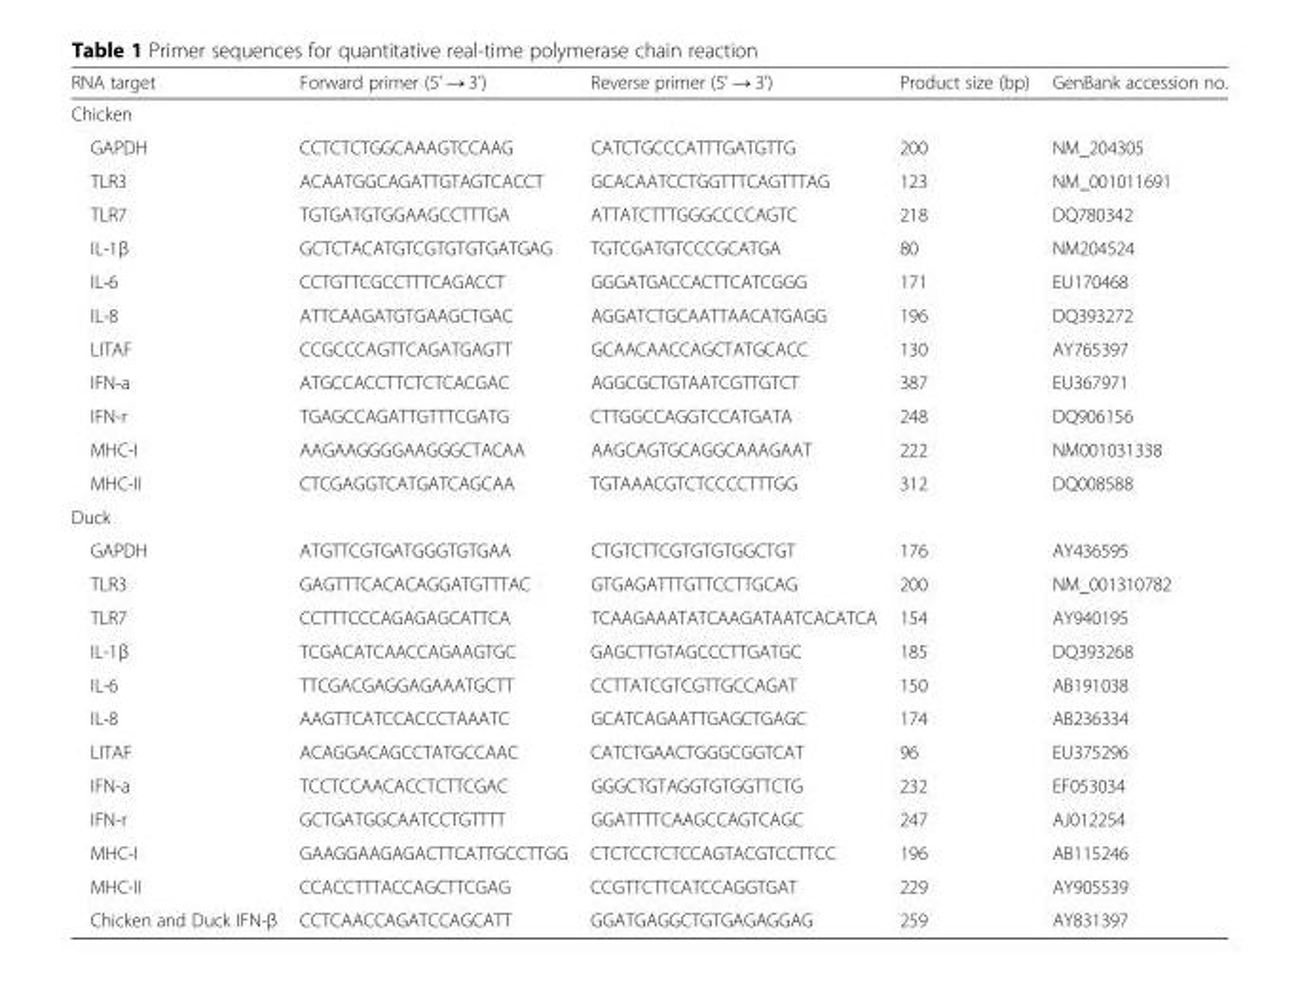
<table><thead><tr><td>RNA target</td><td>Forward primer (5&#x27; → 3&#x27;)</td><td>Reverse primer (5&#x27; → 3&#x27;)</td><td>Product size (bp)</td><td>GenBank accession no.</td></tr></thead><tbody><tr><td colspan="5">Chicken</td></tr><tr><td>GAPDH</td><td>CCTCTCTGGCAAAGTCCAAG</td><td>CATCTGCCCATTTGATGTTG</td><td>200</td><td>NM_204305</td></tr><tr><td>TLR3</td><td>ACAATGGCAGATTGTAGTCACCT</td><td>GCACAATCCTGGTTTCAGTTTAG</td><td>123</td><td>NM_001011691</td></tr><tr><td>TLR7</td><td>TGTGATGTGGAAGCCTTTGA</td><td>ATTATCTTTGGGCCCCAGTC</td><td>218</td><td>DQ780342</td></tr><tr><td>IL-1β</td><td>GCTCTACATGTCGTGTGTGATGAG</td><td>TGTCGATGTCCCGCATGA</td><td>80</td><td>NM204524</td></tr><tr><td>IL-6</td><td>CCTGTTCGCCTTTCAGACCT</td><td>GGGATGACCACTTCATCGGG</td><td>171</td><td>EU170468</td></tr><tr><td>IL-8</td><td>ATTCAAGATGTGAAGCTGAC</td><td>AGGATCTGCAATTAACATGAGG</td><td>196</td><td>DQ393272</td></tr><tr><td>LITAF</td><td>CCGCCCAGTTCAGATGAGTT</td><td>GCAACAACCAGCTATGCACC</td><td>130</td><td>AY765397</td></tr><tr><td>IFN-a</td><td>ATGCCACCTTCTCTCACGAC</td><td>AGGCGCTGTAATCGTTGTCT</td><td>387</td><td>EU367971</td></tr><tr><td>IFN-r</td><td>TGAGCCAGATTGTTTCGATG</td><td>CTTGGCCAGGTCCATGATA</td><td>248</td><td>DQ906156</td></tr><tr><td>MHC-I</td><td>AAGAAGGGGAAGGGCTACAA</td><td>AAGCAGTGCAGGCAAAGAAT</td><td>222</td><td>NM001031338</td></tr><tr><td>MHC-II</td><td>CTCGAGGTCATGATCAGCAA</td><td>TGTAAACGTCTCCCCTTTGG</td><td>312</td><td>DQ008588</td></tr><tr><td colspan="5">Duck</td></tr><tr><td>GAPDH</td><td>ATGTTCGTGATGGGTGTGAA</td><td>CTGTCTTCGTGTGTGGCTGT</td><td>176</td><td>AY436595</td></tr><tr><td>TLR3</td><td>GAGTTTCACACAGGATGTTTAC</td><td>GTGAGATTTGTTCCTTGCAG</td><td>200</td><td>NM_001310782</td></tr><tr><td>TLR7</td><td>CCTTTCCCAGAGAGCATTCA</td><td>TCAAGAAATATCAAGATAATCACATCA</td><td>154</td><td>AY940195</td></tr><tr><td>IL-1β</td><td>TCGACATCAACCAGAAGTGC</td><td>GAGCTTGTAGCCCTTGATGC</td><td>185</td><td>DQ393268</td></tr><tr><td>IL-6</td><td>TTCGACGAGGAGAAATGCTT</td><td>CCTTATCGTCGTTGCCAGAT</td><td>150</td><td>AB191038</td></tr><tr><td>IL-8</td><td>AAGTTCATCCACCCTAAATC</td><td>GCATCAGAATTGAGCTGAGC</td><td>174</td><td>AB236334</td></tr><tr><td>LITAF</td><td>ACAGGACAGCCTATGCCAAC</td><td>CATCTGAACTGGGCGGTCAT</td><td>96</td><td>EU375296</td></tr><tr><td>IFN-a</td><td>TCCTCCAACACCTCTTCGAC</td><td>GGGCTGTAGGTGTGGTTCTG</td><td>232</td><td>EF053034</td></tr><tr><td>IFN-r</td><td>GCTGATGGCAATCCTGTTTT</td><td>GGATTTTCAAGCCAGTCAGC</td><td>247</td><td>AJ012254</td></tr><tr><td>MHC-I</td><td>GAAGGAAGAGACTTCATTGCCTTGG</td><td>CTCTCCTCTCCAGTACGTCCTTCC</td><td>196</td><td>AB115246</td></tr><tr><td>MHC-II</td><td>CCACCTTTACCAGCTTCGAG</td><td>CCGTTCTTCATCCAGGTGAT</td><td>229</td><td>AY905539</td></tr><tr><td>Chicken and Duck IFN-β</td><td>CCTCAACCAGATCCAGCATT</td><td>GGATGAGGCTGTGAGAGGAG</td><td>259</td><td>AY831397</td></tr></tbody></table>